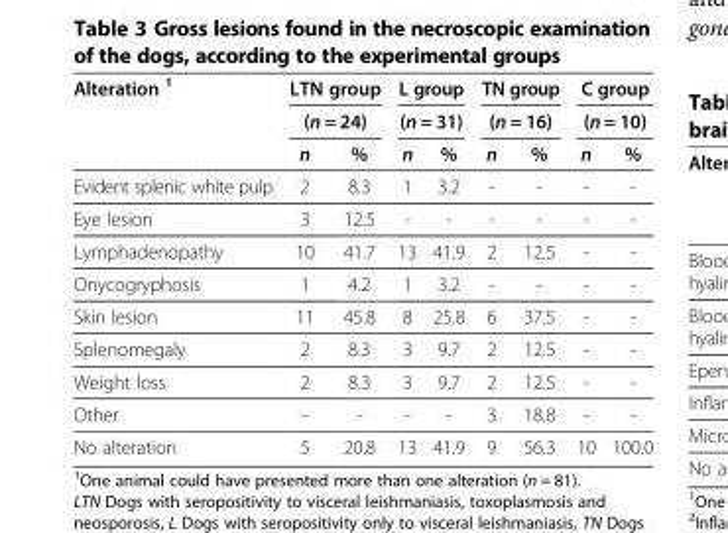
<table><thead><tr><td rowspan="3">Alteration <sup>1</sup></td><td rowspan="2" colspan="2">LTN group (n = 24)</td><td rowspan="2" colspan="2">L group (n = 31)</td><td rowspan="2" colspan="2">TN group (n = 16)</td><td rowspan="2" colspan="2">C group (n = 10)</td></tr><tr></tr><tr><td>n</td><td>%</td><td>n</td><td>%</td><td>n</td><td>%</td><td>n</td><td>%</td></tr></thead><tbody><tr><td>Evident splenic white pulp</td><td>2</td><td>8.3</td><td>1</td><td>3.2</td><td>-</td><td>-</td><td>-</td><td>-</td></tr><tr><td>Eye lesion</td><td>3</td><td>12.5</td><td>-</td><td>-</td><td>-</td><td>-</td><td>-</td><td>-</td></tr><tr><td>Lymphadenopathy</td><td>10</td><td>41.7</td><td>13</td><td>41.9</td><td>2</td><td>12.5</td><td>-</td><td>-</td></tr><tr><td>Onycogryphosis</td><td>1</td><td>4.2</td><td>1</td><td>3.2</td><td>-</td><td>-</td><td>-</td><td>-</td></tr><tr><td>Skin lesion</td><td>11</td><td>45.8</td><td>8</td><td>25.8</td><td>6</td><td>37.5</td><td>-</td><td>-</td></tr><tr><td>Splenomegaly</td><td>2</td><td>8.3</td><td>3</td><td>9.7</td><td>2</td><td>12.5</td><td>-</td><td>-</td></tr><tr><td>Weight loss</td><td>2</td><td>8.3</td><td>3</td><td>9.7</td><td>2</td><td>12.5</td><td>-</td><td>-</td></tr><tr><td>Other</td><td>-</td><td>-</td><td>-</td><td>-</td><td>3</td><td>18.8</td><td>-</td><td>-</td></tr><tr><td>No alteration</td><td>5</td><td>20.8</td><td>13</td><td>41.9</td><td>9</td><td>56.3</td><td>10</td><td>100.0</td></tr></tbody></table>